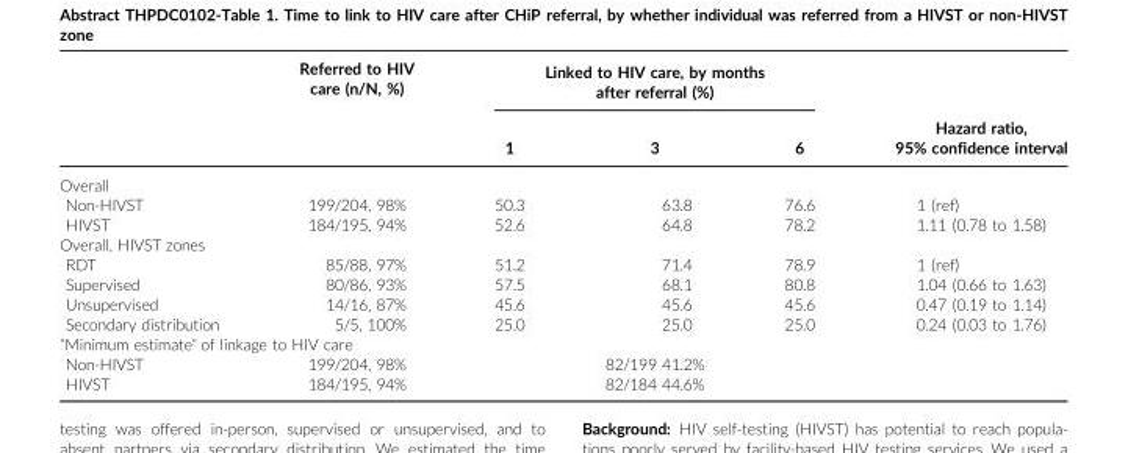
<table><thead><tr><td rowspan="2"></td><td rowspan="2">Referred to HIV care (n/N, %)</td><td colspan="3">Linked to HIV care, by months after referral (%)</td><td rowspan="2">Hazard ratio, 95% confidence interval</td></tr><tr><td>1</td><td>3</td><td>6</td></tr></thead><tbody><tr><td colspan="6">Overall</td></tr><tr><td>Non-HIVST</td><td>199/204, 98%</td><td>50.3</td><td>63.8</td><td>76.6</td><td>1 (ref)</td></tr><tr><td>HIVST</td><td>184/195, 94%</td><td>52.6</td><td>64.8</td><td>78.2</td><td>1.11 (0.78 to 1.58)</td></tr><tr><td colspan="6">Overall, HIVST zones</td></tr><tr><td>RDT</td><td>85/88, 97%</td><td>51.2</td><td>71.4</td><td>78.9</td><td>1 (ref)</td></tr><tr><td>Supervised</td><td>80/86, 93%</td><td>57.5</td><td>68.1</td><td>80.8</td><td>1.04 (0.66 to 1.63)</td></tr><tr><td>Unsupervised</td><td>14/16, 87%</td><td>45.6</td><td>45.6</td><td>45.6</td><td>0.47 (0.19 to 1.14)</td></tr><tr><td>Secondary distribution</td><td>5/5, 100%</td><td>25.0</td><td>25.0</td><td>25.0</td><td>0.24 (0.03 to 1.76)</td></tr><tr><td colspan="6">“Minimum estimate” of linkage to HIV care</td></tr><tr><td>Non-HIVST</td><td>199/204, 98%</td><td></td><td>82/199 41.2%</td><td></td><td></td></tr><tr><td>HIVST</td><td>184/195, 94%</td><td></td><td>82/184 44.6%</td><td></td><td></td></tr></tbody></table>